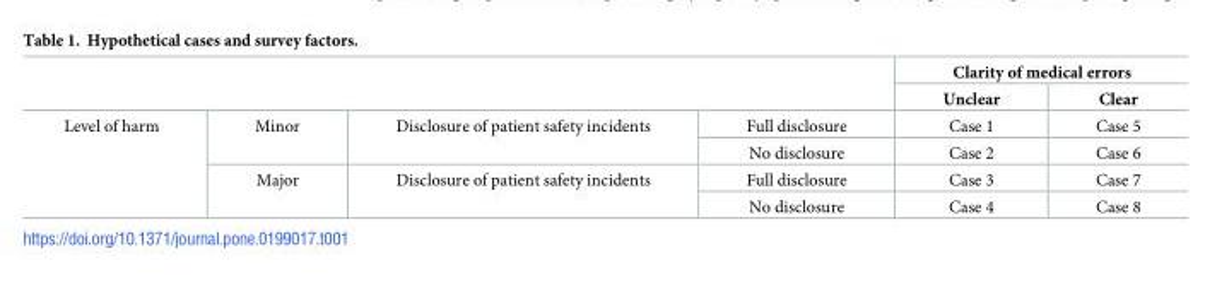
<table><thead><tr><td rowspan="2"></td><td rowspan="2"></td><td rowspan="2"></td><td rowspan="2"></td><td colspan="2">Clarity of medical errors</td></tr><tr><td>Unclear</td><td>Clear</td></tr></thead><tbody><tr><td rowspan="4">Level of harm</td><td rowspan="2">Minor</td><td rowspan="2">Disclosure of patient safety incidents</td><td>Full disclosure</td><td>Case 1</td><td>Case 5</td></tr><tr><td>No disclosure</td><td>Case 2</td><td>Case 6</td></tr><tr><td rowspan="2">Major</td><td rowspan="2">Disclosure of patient safety incidents</td><td>Full disclosure</td><td>Case 3</td><td>Case 7</td></tr><tr><td>No disclosure</td><td>Case 4</td><td>Case 8</td></tr></tbody></table>